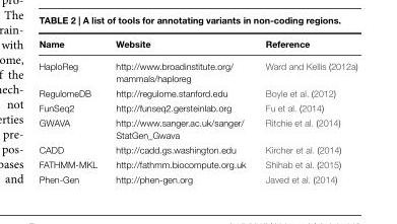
<table><thead><tr><td>Name</td><td>Website</td><td>Reference</td></tr></thead><tbody><tr><td>HaploReg</td><td>http://www.broadinstitute.org/ mammals/haploreg</td><td>Ward and Kellis (2012a)</td></tr><tr><td>RegulomeDB</td><td>http://regulome.stanford.edu</td><td>Boyle et al. (2012)</td></tr><tr><td>FunSeq2</td><td>http://funseq2.gersteinlab.org</td><td>Fu et al. (2014)</td></tr><tr><td>GWAVA</td><td>http://www.sanger.ac.uk/sanger/ StatGen_Gwava</td><td>Ritchie et al. (2014)</td></tr><tr><td>CADD</td><td>http://cadd.gs.washington.edu</td><td>Kircher et al. (2014)</td></tr><tr><td>FATHMM-MKL</td><td>http://fathmm.biocompute.org.uk</td><td>Shihab et al. (2015)</td></tr><tr><td>Phen-Gen</td><td>http://phen-gen.org</td><td>Javed et al. (2014)</td></tr></tbody></table>